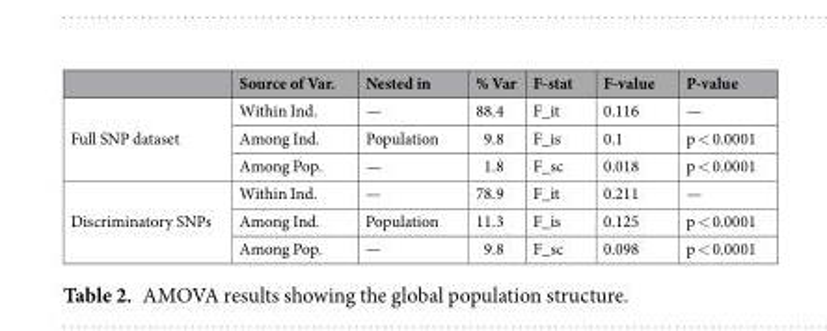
<table><thead><tr><td></td><td>Source of Var.</td><td>Nested in</td><td>% Var</td><td>F-stat</td><td>F-value</td><td>P-value</td></tr></thead><tbody><tr><td rowspan="3">Full SNP dataset</td><td>Within Ind.</td><td>—</td><td>88.4</td><td>F_it</td><td>0.116</td><td>—</td></tr><tr><td>Among Ind.</td><td>Population</td><td>9.8</td><td>F_is</td><td>0.1</td><td>p &lt; 0.0001</td></tr><tr><td>Among Pop.</td><td>—</td><td>1.8</td><td>F_sc</td><td>0.018</td><td>p &lt; 0.0001</td></tr><tr><td rowspan="3">Discriminatory SNPs</td><td>Within Ind.</td><td>—</td><td>78.9</td><td>F_it</td><td>0.211</td><td>—</td></tr><tr><td>Among Ind.</td><td>Population</td><td>11.3</td><td>F_is</td><td>0.125</td><td>p &lt; 0.0001</td></tr><tr><td>Among Pop.</td><td>—</td><td>9.8</td><td>F_sc</td><td>0.098</td><td>p &lt; 0.0001</td></tr></tbody></table>